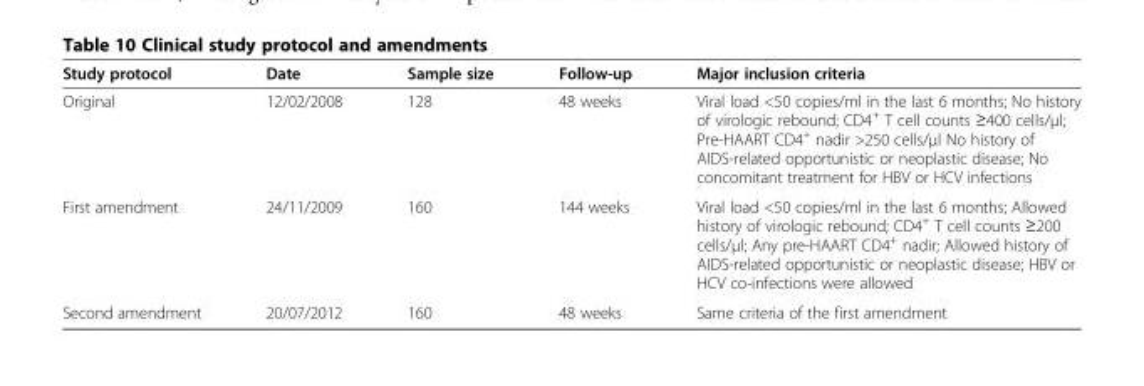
<table><thead><tr><td>Study protocol</td><td>Date</td><td>Sample size</td><td>Follow-up</td><td>Major inclusion criteria</td></tr></thead><tbody><tr><td>Original</td><td>12/02/2008</td><td>128</td><td>48 weeks</td><td>Viral load &lt;50 copies/ml in the last 6 months; No history of virologic rebound; CD4<sup>+</sup> T cell counts ≥400 cells/μl; Pre-HAART CD4<sup>+</sup> nadir &gt;250 cells/μl No history of AIDS-related opportunistic or neoplastic disease; No concomitant treatment for HBV or HCV infections</td></tr><tr><td>First amendment</td><td>24/11/2009</td><td>160</td><td>144 weeks</td><td>Viral load &lt;50 copies/ml in the last 6 months; Allowed history of virologic rebound; CD4<sup>+</sup> T cell counts ≥200 cells/μl; Any pre-HAART CD4<sup>+</sup> nadir; Allowed history of AIDS-related opportunistic or neoplastic disease; HBV or HCV co-infections were allowed</td></tr><tr><td>Second amendment</td><td>20/07/2012</td><td>160</td><td>48 weeks</td><td>Same criteria of the first amendment</td></tr></tbody></table>